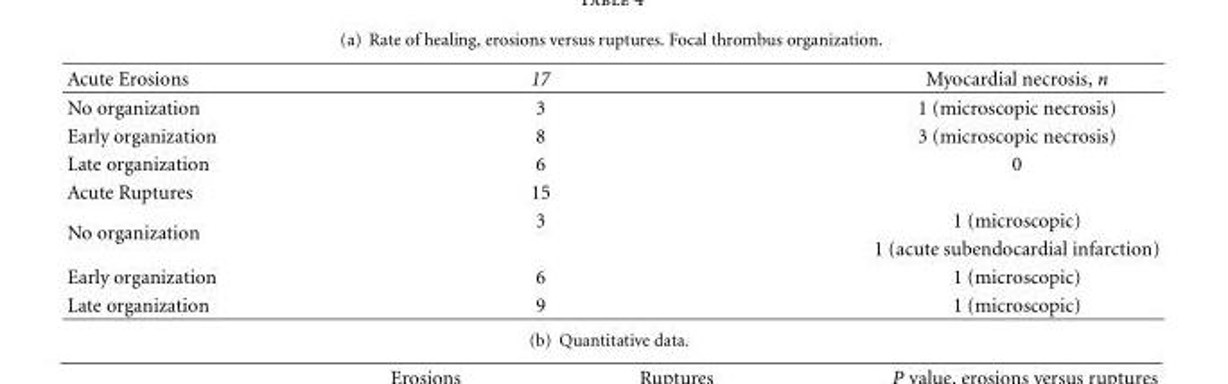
<table><thead><tr><td>Acute Erosions</td><td>17</td><td>Myocardial necrosis, n</td></tr></thead><tbody><tr><td>No organization</td><td>3</td><td>1 (microscopic necrosis)</td></tr><tr><td>Early organization</td><td>8</td><td>3 (microscopic necrosis)</td></tr><tr><td>Late organization</td><td>6</td><td>0</td></tr><tr><td>Acute Ruptures</td><td>15</td><td></td></tr><tr><td rowspan="2">No organization</td><td>3</td><td>1 (microscopic)</td></tr><tr><td></td><td>1 (acute subendocardial infarction)</td></tr><tr><td>Early organization</td><td>6</td><td>1 (microscopic)</td></tr><tr><td>Late organization</td><td>9</td><td>1 (microscopic)</td></tr></tbody></table>